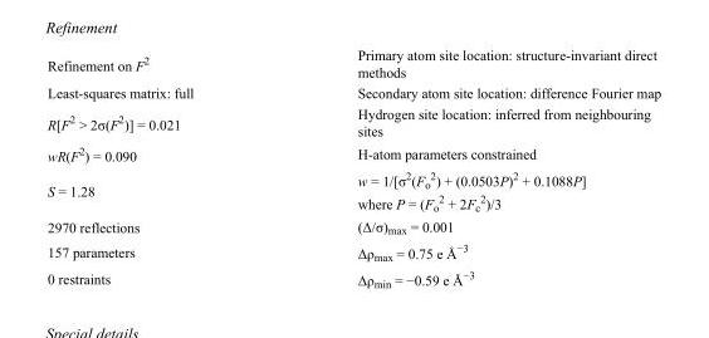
<table><tbody><tr><td>Refinement on F<sup>2</sup></td><td>Primary atom site location: structure-invariant direct methods</td></tr><tr><td>Least-squares matrix: full</td><td>Secondary atom site location: difference Fourier map</td></tr><tr><td>R[F<sup>2</sup> &gt; 2σ(F<sup>2</sup>)] = 0.021</td><td>Hydrogen site location: inferred from neighbouring sites</td></tr><tr><td>wR(F<sup>2</sup>) = 0.090</td><td>H-atom parameters constrained</td></tr><tr><td>S = 1.28</td><td>w = 1/[σ<sup>2</sup>(F<sub>o</sub> <sup>2</sup>) + (0.0503P)<sup>2</sup> + 0.1088P] where P = (F<sub>o</sub> <sup>2</sup> + 2F<sub>c</sub> <sup>2</sup>)/3</td></tr><tr><td>2970 reflections</td><td>(Δ/σ)<sub>max</sub> = 0.001</td></tr><tr><td>157 parameters</td><td>Δρ<sub>max</sub> = 0.75 e Å<sup>−3</sup></td></tr><tr><td>0 restraints</td><td>Δρ<sub>min</sub> = −0.59 e Å<sup>−3</sup></td></tr></tbody></table>